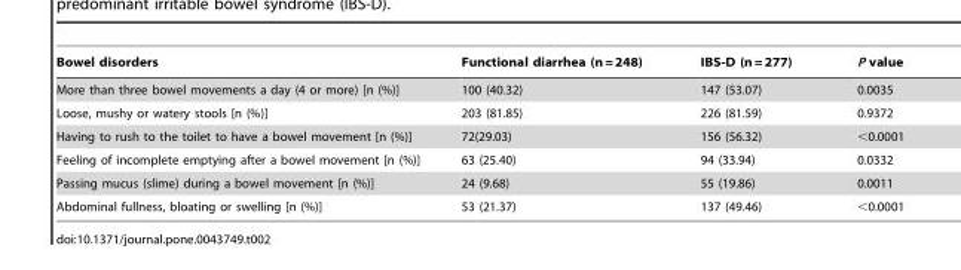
<table><thead><tr><td>Bowel disorders</td><td>Functional diarrhea (n = 248)</td><td>IBS-D (n = 277)</td><td>P value</td></tr></thead><tbody><tr><td>More than three bowel movements a day (4 or more) [n (%)]</td><td>100 (40.32)</td><td>147 (53.07)</td><td>0.0035</td></tr><tr><td>Loose, mushy or watery stools [n (%)]</td><td>203 (81.85)</td><td>226 (81.59)</td><td>0.9372</td></tr><tr><td>Having to rush to the toilet to have a bowel movement [n (%)]</td><td>72(29.03)</td><td>156 (56.32)</td><td>&lt;0.0001</td></tr><tr><td>Feeling of incomplete emptying after a bowel movement [n (%)]</td><td>63 (25.40)</td><td>94 (33.94)</td><td>0.0332</td></tr><tr><td>Passing mucus (slime) during a bowel movement [n (%)]</td><td>24 (9.68)</td><td>55 (19.86)</td><td>0.0011</td></tr><tr><td>Abdominal fullness, bloating or swelling [n (%)]</td><td>53 (21.37)</td><td>137 (49.46)</td><td>&lt;0.0001</td></tr></tbody></table>